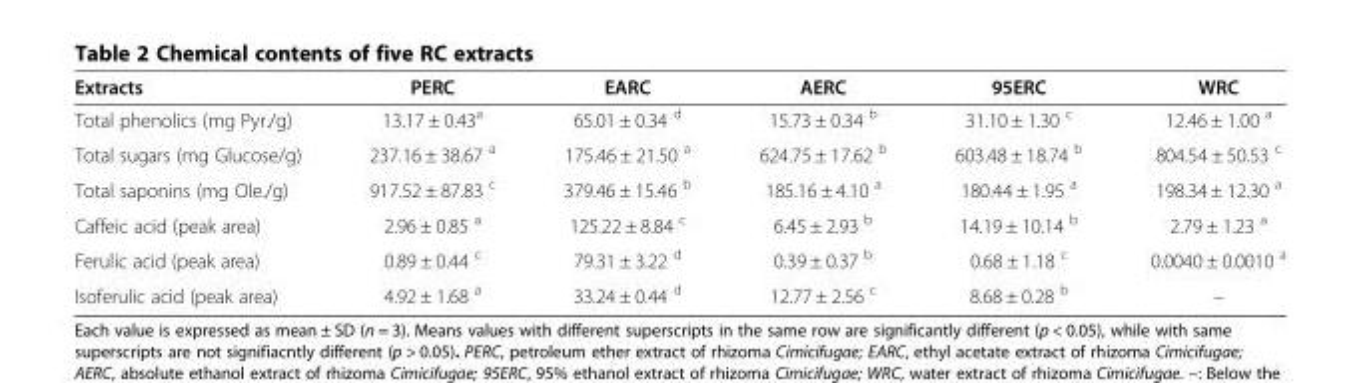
<table><thead><tr><td>Extracts</td><td>PERC</td><td>EARC</td><td>AERC</td><td>95ERC</td><td>WRC</td></tr></thead><tbody><tr><td>Total phenolics (mg Pyr./g)</td><td>13.17 ± 0.43<sup>a</sup></td><td>65.01 ± 0.34 <sup>d</sup></td><td>15.73 ± 0.34 <sup>b</sup></td><td>31.10 ± 1.30 <sup>c</sup></td><td>12.46 ± 1.00 <sup>a</sup></td></tr><tr><td>Total sugars (mg Glucose/g)</td><td>237.16 ± 38.67 <sup>a</sup></td><td>175.46 ± 21.50 <sup>a</sup></td><td>624.75 ± 17.62 <sup>b</sup></td><td>603.48 ± 18.74 <sup>b</sup></td><td>804.54 ± 50.53 <sup>c</sup></td></tr><tr><td>Total saponins (mg Ole./g)</td><td>917.52 ± 87.83 <sup>c</sup></td><td>379.46 ± 15.46 <sup>b</sup></td><td>185.16 ± 4.10 <sup>a</sup></td><td>180.44 ± 1.95 <sup>a</sup></td><td>198.34 ± 12.30 <sup>a</sup></td></tr><tr><td>Caffeic acid (peak area)</td><td>2.96 ± 0.85 <sup>a</sup></td><td>125.22 ± 8.84 <sup>c</sup></td><td>6.45 ± 2.93 <sup>b</sup></td><td>14.19 ± 10.14 <sup>b</sup></td><td>2.79 ± 1.23 <sup>a</sup></td></tr><tr><td>Ferulic acid (peak area)</td><td>0.89 ± 0.44 <sup>c</sup></td><td>79.31 ± 3.22 <sup>d</sup></td><td>0.39 ± 0.37 <sup>b</sup></td><td>0.68 ± 1.18 <sup>c</sup></td><td>0.0040 ± 0.0010 <sup>a</sup></td></tr><tr><td>Isoferulic acid (peak area)</td><td>4.92 ± 1.68 <sup>a</sup></td><td>33.24 ± 0.44 <sup>d</sup></td><td>12.77 ± 2.56 <sup>c</sup></td><td>8.68 ± 0.28 <sup>b</sup></td><td>–</td></tr></tbody></table>